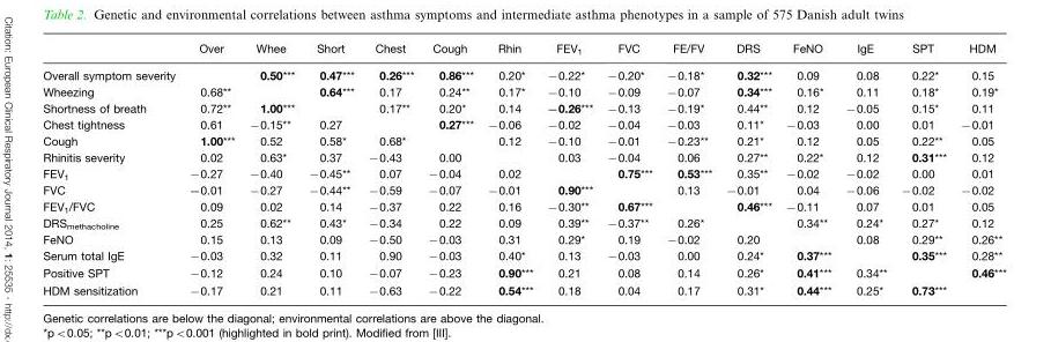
<table><thead><tr><td></td><td>Over</td><td>Whee</td><td>Short</td><td>Chest</td><td>Cough</td><td>Rhin</td><td>FEV<sub>1</sub></td><td>FVC</td><td>FE/FV</td><td>DRS</td><td>FeNO</td><td>IgE</td><td>SPT</td><td>HDM</td></tr></thead><tbody><tr><td>Overall symptom severity</td><td></td><td>0.50***</td><td>0.47***</td><td>0.26***</td><td>0.86***</td><td>0.20*</td><td>−0.22*</td><td>−0.20*</td><td>−0.18*</td><td>0.32***</td><td>0.09</td><td>0.08</td><td>0.22*</td><td>0.15</td></tr><tr><td>Wheezing</td><td>0.68**</td><td></td><td>0.64***</td><td>0.17</td><td>0.24**</td><td>0.17*</td><td>−0.10</td><td>−0.09</td><td>−0.07</td><td>0.34***</td><td>0.16*</td><td>0.11</td><td>0.18*</td><td>0.19*</td></tr><tr><td>Shortness of breath</td><td>0.72**</td><td>1.00***</td><td></td><td>0.17**</td><td>0.20*</td><td>0.14</td><td>−0.26***</td><td>−0.13</td><td>−0.19*</td><td>0.44**</td><td>0.12</td><td>−0.05</td><td>0.15*</td><td>0.11</td></tr><tr><td>Chest tightness</td><td>0.61</td><td>−0.15**</td><td>0.27</td><td></td><td>0.27***</td><td>−0.06</td><td>−0.02</td><td>−0.04</td><td>−0.03</td><td>0.11*</td><td>−0.03</td><td>0.00</td><td>0.01</td><td>−0.01</td></tr><tr><td>Cough</td><td>1.00***</td><td>0.52</td><td>0.58*</td><td>0.68*</td><td></td><td>0.12</td><td>−0.10</td><td>−0.01</td><td>−0.23**</td><td>0.21*</td><td>0.12</td><td>0.05</td><td>0.22**</td><td>0.05</td></tr><tr><td>Rhinitis severity</td><td>0.02</td><td>0.63*</td><td>0.37</td><td>−0.43</td><td>0.00</td><td></td><td>0.03</td><td>−0.04</td><td>0.06</td><td>0.27**</td><td>0.22*</td><td>0.12</td><td>0.31***</td><td>0.12</td></tr><tr><td>FEV<sub>1</sub></td><td>−0.27</td><td>−0.40</td><td>−0.45**</td><td>0.07</td><td>−0.04</td><td>0.02</td><td></td><td>0.75***</td><td>0.53***</td><td>0.35**</td><td>−0.02</td><td>−0.02</td><td>0.00</td><td>0.01</td></tr><tr><td>FVC</td><td>−0.01</td><td>−0.27</td><td>−0.44**</td><td>−0.59</td><td>−0.07</td><td>−0.01</td><td>0.90***</td><td></td><td>0.13</td><td>−0.01</td><td>0.04</td><td>−0.06</td><td>−0.02</td><td>−0.02</td></tr><tr><td>FEV<sub>1</sub>/FVC</td><td>0.09</td><td>0.02</td><td>0.14</td><td>−0.37</td><td>0.22</td><td>0.16</td><td>−0.30**</td><td>0.67***</td><td></td><td>0.46***</td><td>−0.11</td><td>0.07</td><td>0.01</td><td>0.05</td></tr><tr><td>DRS<sub>methacholine</sub></td><td>0.25</td><td>0.62**</td><td>0.43*</td><td>−0.34</td><td>0.22</td><td>0.09</td><td>0.39**</td><td>−0.37**</td><td>0.26*</td><td></td><td>0.34**</td><td>0.24*</td><td>0.27*</td><td>0.12</td></tr><tr><td>FeNO</td><td>0.15</td><td>0.13</td><td>0.09</td><td>−0.50</td><td>−0.03</td><td>0.31</td><td>0.29*</td><td>0.19</td><td>−0.02</td><td>0.20</td><td></td><td>0.08</td><td>0.29**</td><td>0.26**</td></tr><tr><td>Serum total IgE</td><td>−0.03</td><td>0.32</td><td>0.11</td><td>0.90</td><td>−0.03</td><td>0.40*</td><td>0.13</td><td>−0.03</td><td>0.00</td><td>0.24*</td><td>0.37***</td><td></td><td>0.35***</td><td>0.28**</td></tr><tr><td>Positive SPT</td><td>−0.12</td><td>0.24</td><td>0.10</td><td>−0.07</td><td>−0.23</td><td>0.90***</td><td>0.21</td><td>0.08</td><td>0.14</td><td>0.26*</td><td>0.41***</td><td>0.34**</td><td></td><td>0.46***</td></tr><tr><td>HDM sensitization</td><td>−0.17</td><td>0.21</td><td>0.11</td><td>−0.63</td><td>−0.22</td><td>0.54***</td><td>0.18</td><td>0.04</td><td>0.17</td><td>0.31*</td><td>0.44***</td><td>0.25*</td><td>0.73***</td><td></td></tr></tbody></table>